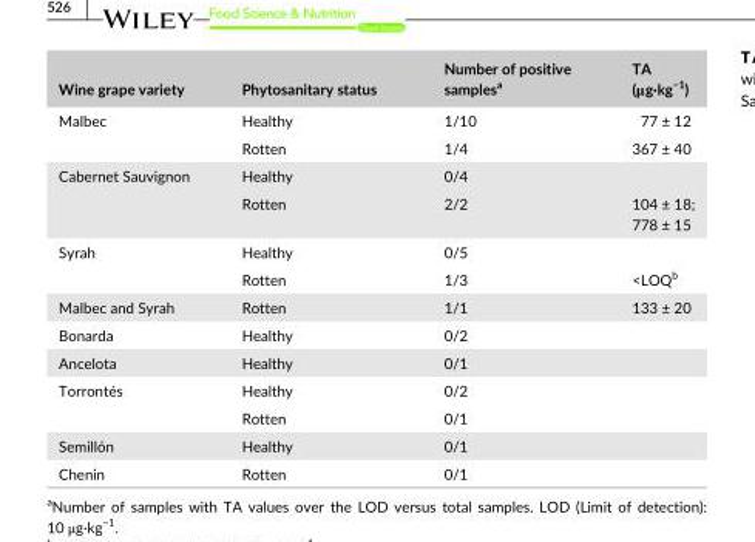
<table><thead><tr><td>Wine grape variety</td><td>Phytosanitary status</td><td>Number of positive samples<sup>a</sup></td><td>TA (μg·kg<sup>−1</sup>)</td></tr></thead><tbody><tr><td rowspan="2">Malbec</td><td>Healthy</td><td>1/10</td><td>77 ± 12</td></tr><tr><td>Rotten</td><td>1/4</td><td>367 ± 40</td></tr><tr><td rowspan="2">Cabernet Sauvignon</td><td>Healthy</td><td>0/4</td><td></td></tr><tr><td>Rotten</td><td>2/2</td><td>104 ± 18; 778 ± 15</td></tr><tr><td rowspan="2">Syrah</td><td>Healthy</td><td>0/5</td><td></td></tr><tr><td>Rotten</td><td>1/3</td><td>&lt;LOQ<sup>b</sup></td></tr><tr><td>Malbec and Syrah</td><td>Rotten</td><td>1/1</td><td>133 ± 20</td></tr><tr><td>Bonarda</td><td>Healthy</td><td>0/2</td><td></td></tr><tr><td>Ancelota</td><td>Healthy</td><td>0/1</td><td></td></tr><tr><td rowspan="2">Torrontés</td><td>Healthy</td><td>0/2</td><td></td></tr><tr><td>Rotten</td><td>0/1</td><td></td></tr><tr><td>Semillón</td><td>Healthy</td><td>0/1</td><td></td></tr><tr><td>Chenin</td><td>Rotten</td><td>0/1</td><td></td></tr></tbody></table>